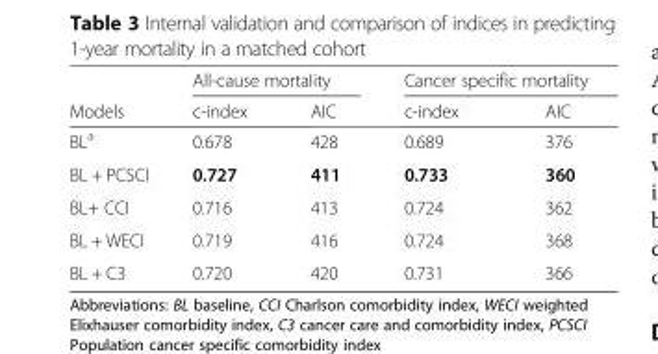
<table><thead><tr><td rowspan="2">Models</td><td colspan="2">All-cause mortality</td><td colspan="2">Cancer specific mortality</td></tr><tr><td>c-index</td><td>AIC</td><td>c-index</td><td>AIC</td></tr></thead><tbody><tr><td>BL<sup>a</sup></td><td>0.678</td><td>428</td><td>0.689</td><td>376</td></tr><tr><td>BL + PCSCI</td><td>0.727</td><td>411</td><td>0.733</td><td>360</td></tr><tr><td>BL+ CCI</td><td>0.716</td><td>413</td><td>0.724</td><td>362</td></tr><tr><td>BL + WECI</td><td>0.719</td><td>416</td><td>0.724</td><td>368</td></tr><tr><td>BL + C3</td><td>0.720</td><td>420</td><td>0.731</td><td>366</td></tr></tbody></table>